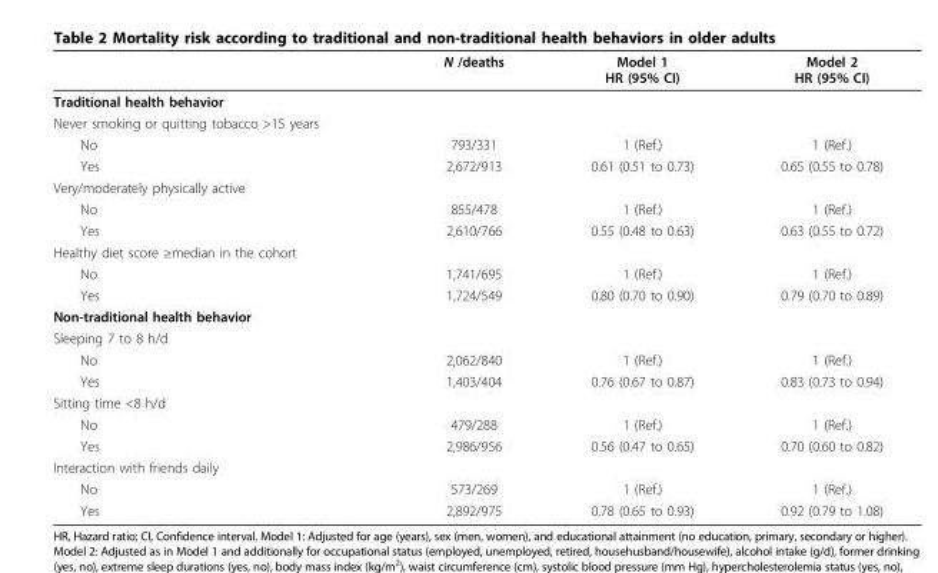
<table><thead><tr><td></td><td>N /deaths</td><td>Model 1 HR (95% CI)</td><td>Model 2 HR (95% CI)</td></tr></thead><tbody><tr><td colspan="4">Traditional health behavior</td></tr><tr><td colspan="4">Never smoking or quitting tobacco &gt;15 years</td></tr><tr><td>No</td><td>793/331</td><td>1 (Ref.)</td><td>1 (Ref.)</td></tr><tr><td>Yes</td><td>2,672/913</td><td>0.61 (0.51 to 0.73)</td><td>0.65 (0.55 to 0.78)</td></tr><tr><td colspan="4">Very/moderately physically active</td></tr><tr><td>No</td><td>855/478</td><td>1 (Ref.)</td><td>1 (Ref.)</td></tr><tr><td>Yes</td><td>2,610/766</td><td>0.55 (0.48 to 0.63)</td><td>0.63 (0.55 to 0.72)</td></tr><tr><td colspan="4">Healthy diet score ≥median in the cohort</td></tr><tr><td>No</td><td>1,741/695</td><td>1 (Ref.)</td><td>1 (Ref.)</td></tr><tr><td>Yes</td><td>1,724/549</td><td>0.80 (0.70 to 0.90)</td><td>0.79 (0.70 to 0.89)</td></tr><tr><td colspan="4">Non-traditional health behavior</td></tr><tr><td colspan="4">Sleeping 7 to 8 h/d</td></tr><tr><td>No</td><td>2,062/840</td><td>1 (Ref.)</td><td>1 (Ref.)</td></tr><tr><td>Yes</td><td>1,403/404</td><td>0.76 (0.67 to 0.87)</td><td>0.83 (0.73 to 0.94)</td></tr><tr><td colspan="4">Sitting time &lt;8 h/d</td></tr><tr><td>No</td><td>479/288</td><td>1 (Ref.)</td><td>1 (Ref.)</td></tr><tr><td>Yes</td><td>2,986/956</td><td>0.56 (0.47 to 0.65)</td><td>0.70 (0.60 to 0.82)</td></tr><tr><td colspan="4">Interaction with friends daily</td></tr><tr><td>No</td><td>573/269</td><td>1 (Ref.)</td><td>1 (Ref.)</td></tr><tr><td>Yes</td><td>2,892/975</td><td>0.78 (0.65 to 0.93)</td><td>0.92 (0.79 to 1.08)</td></tr></tbody></table>